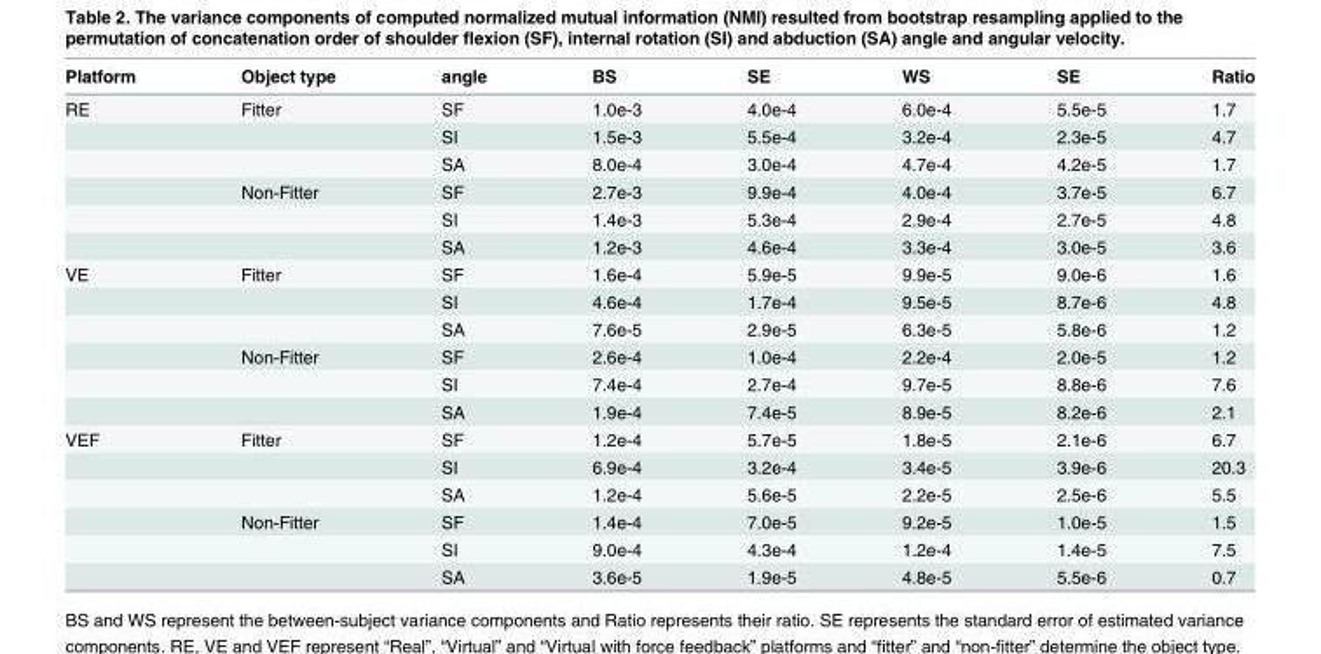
<table><thead><tr><td>Platform</td><td>Object type</td><td>angle</td><td>BS</td><td>SE</td><td>WS</td><td>SE</td><td>Ratio</td></tr></thead><tbody><tr><td rowspan="6">RE</td><td>Fitter</td><td>SF</td><td>1.0e-3</td><td>4.0e-4</td><td>6.0e-4</td><td>5.5e-5</td><td>1.7</td></tr><tr><td></td><td>SI</td><td>1.5e-3</td><td>5.5e-4</td><td>3.2e-4</td><td>2.3e-5</td><td>4.7</td></tr><tr><td></td><td>SA</td><td>8.0e-4</td><td>3.0e-4</td><td>4.7e-4</td><td>4.2e-5</td><td>1.7</td></tr><tr><td>Non-Fitter</td><td>SF</td><td>2.7e-3</td><td>9.9e-4</td><td>4.0e-4</td><td>3.7e-5</td><td>6.7</td></tr><tr><td></td><td>SI</td><td>1.4e-3</td><td>5.3e-4</td><td>2.9e-4</td><td>2.7e-5</td><td>4.8</td></tr><tr><td></td><td>SA</td><td>1.2e-3</td><td>4.6e-4</td><td>3.3e-4</td><td>3.0e-5</td><td>3.6</td></tr><tr><td rowspan="6">VE</td><td>Fitter</td><td>SF</td><td>1.6e-4</td><td>5.9e-5</td><td>9.9e-5</td><td>9.0e-6</td><td>1.6</td></tr><tr><td></td><td>SI</td><td>4.6e-4</td><td>1.7e-4</td><td>9.5e-5</td><td>8.7e-6</td><td>4.8</td></tr><tr><td></td><td>SA</td><td>7.6e-5</td><td>2.9e-5</td><td>6.3e-5</td><td>5.8e-6</td><td>1.2</td></tr><tr><td>Non-Fitter</td><td>SF</td><td>2.6e-4</td><td>1.0e-4</td><td>2.2e-4</td><td>2.0e-5</td><td>1.2</td></tr><tr><td></td><td>SI</td><td>7.4e-4</td><td>2.7e-4</td><td>9.7e-5</td><td>8.8e-6</td><td>7.6</td></tr><tr><td></td><td>SA</td><td>1.9e-4</td><td>7.4e-5</td><td>8.9e-5</td><td>8.2e-6</td><td>2.1</td></tr><tr><td rowspan="6">VEF</td><td>Fitter</td><td>SF</td><td>1.2e-4</td><td>5.7e-5</td><td>1.8e-5</td><td>2.1e-6</td><td>6.7</td></tr><tr><td></td><td>SI</td><td>6.9e-4</td><td>3.2e-4</td><td>3.4e-5</td><td>3.9e-6</td><td>20.3</td></tr><tr><td></td><td>SA</td><td>1.2e-4</td><td>5.6e-5</td><td>2.2e-5</td><td>2.5e-6</td><td>5.5</td></tr><tr><td>Non-Fitter</td><td>SF</td><td>1.4e-4</td><td>7.0e-5</td><td>9.2e-5</td><td>1.0e-5</td><td>1.5</td></tr><tr><td></td><td>SI</td><td>9.0e-4</td><td>4.3e-4</td><td>1.2e-4</td><td>1.4e-5</td><td>7.5</td></tr><tr><td></td><td>SA</td><td>3.6e-5</td><td>1.9e-5</td><td>4.8e-5</td><td>5.5e-6</td><td>0.7</td></tr></tbody></table>